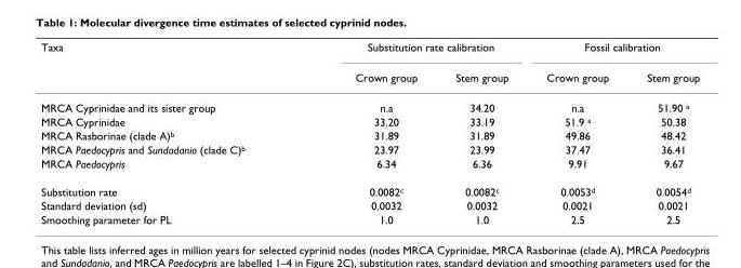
<table><thead><tr><td rowspan="2">Taxa</td><td colspan="2">Substitution rate calibration</td><td colspan="2">Fossil calibration</td></tr><tr><td>Crown group</td><td>Stem group</td><td>Crown group</td><td>Stem group</td></tr></thead><tbody><tr><td>MRCA Cyprinidae and its sister group</td><td>n.a</td><td>34.20</td><td>n.a</td><td>51.90 <sup>a</sup></td></tr><tr><td>MRCA Cyprinidae</td><td>33.20</td><td>33.19</td><td>51.9 <sup>a</sup></td><td>50.38</td></tr><tr><td>MRCA Rasborinae (clade A)<sup>b</sup></td><td>31.89</td><td>31.89</td><td>49.86</td><td>48.42</td></tr><tr><td>MRCA Paedocypris and Sundadanio (clade C)<sup>b</sup></td><td>23.97</td><td>23.99</td><td>37.47</td><td>36.41</td></tr><tr><td>MRCA Paedocypris</td><td>6.34</td><td>6.36</td><td>9.91</td><td>9.67</td></tr><tr><td>Substitution rate</td><td>0.0082<sup>c</sup></td><td>0.0082<sup>c</sup></td><td>0.0053<sup>d</sup></td><td>0.0054<sup>d</sup></td></tr><tr><td>Standard deviation (sd)</td><td>0.0032</td><td>0.0032</td><td>0.0021</td><td>0.0021</td></tr><tr><td>Smoothing parameter for PL</td><td>1.0</td><td>1.0</td><td>2.5</td><td>2.5</td></tr></tbody></table>